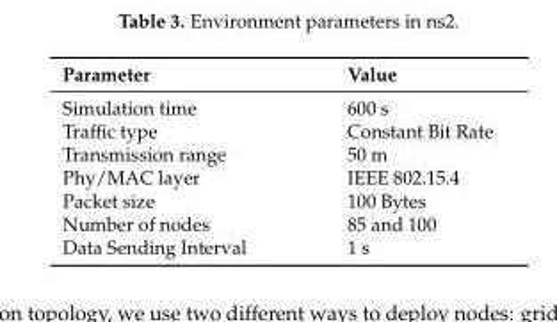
<table><thead><tr><td>Parameter</td><td>Value</td></tr></thead><tbody><tr><td>Simulation time</td><td>600 s</td></tr><tr><td>Traffic type</td><td>Constant Bit Rate</td></tr><tr><td>Transmission range</td><td>50 m</td></tr><tr><td>Phy/MAC layer</td><td>IEEE 802.15.4</td></tr><tr><td>Packet size</td><td>100 Bytes</td></tr><tr><td>Number of nodes</td><td>85 and 100</td></tr><tr><td>Data Sending Interval</td><td>1 s</td></tr></tbody></table>